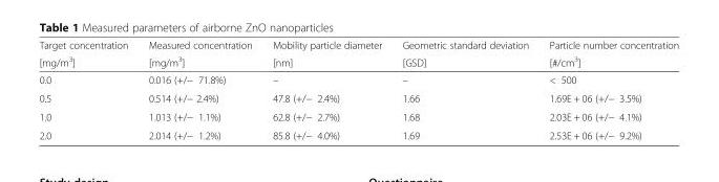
<table><thead><tr><td rowspan="2">Target concentration [mg/m<sup>3</sup>]</td><td rowspan="2">Measured concentration [mg/m<sup>3</sup>]</td><td rowspan="2">Mobility particle diameter [nm]</td><td rowspan="2">Geometric standard deviation [GSD]</td><td rowspan="2">Particle number concentration [#/cm<sup>3</sup>]</td></tr><tr></tr></thead><tbody><tr><td>0.0</td><td>0.016 (+/− 71.8%)</td><td>–</td><td>–</td><td>&lt; 500</td></tr><tr><td>0.5</td><td>0.514 (+/− 2.4%)</td><td>47.8 (+/− 2.4%)</td><td>1.66</td><td>1.69E + 06 (+/− 3.5%)</td></tr><tr><td>1.0</td><td>1.013 (+/− 1.1%)</td><td>62.8 (+/− 2.7%)</td><td>1.68</td><td>2.03E + 06 (+/− 4.1%)</td></tr><tr><td>2.0</td><td>2.014 (+/− 1.2%)</td><td>85.8 (+/− 4.0%)</td><td>1.69</td><td>2.53E + 06 (+/− 9.2%)</td></tr></tbody></table>